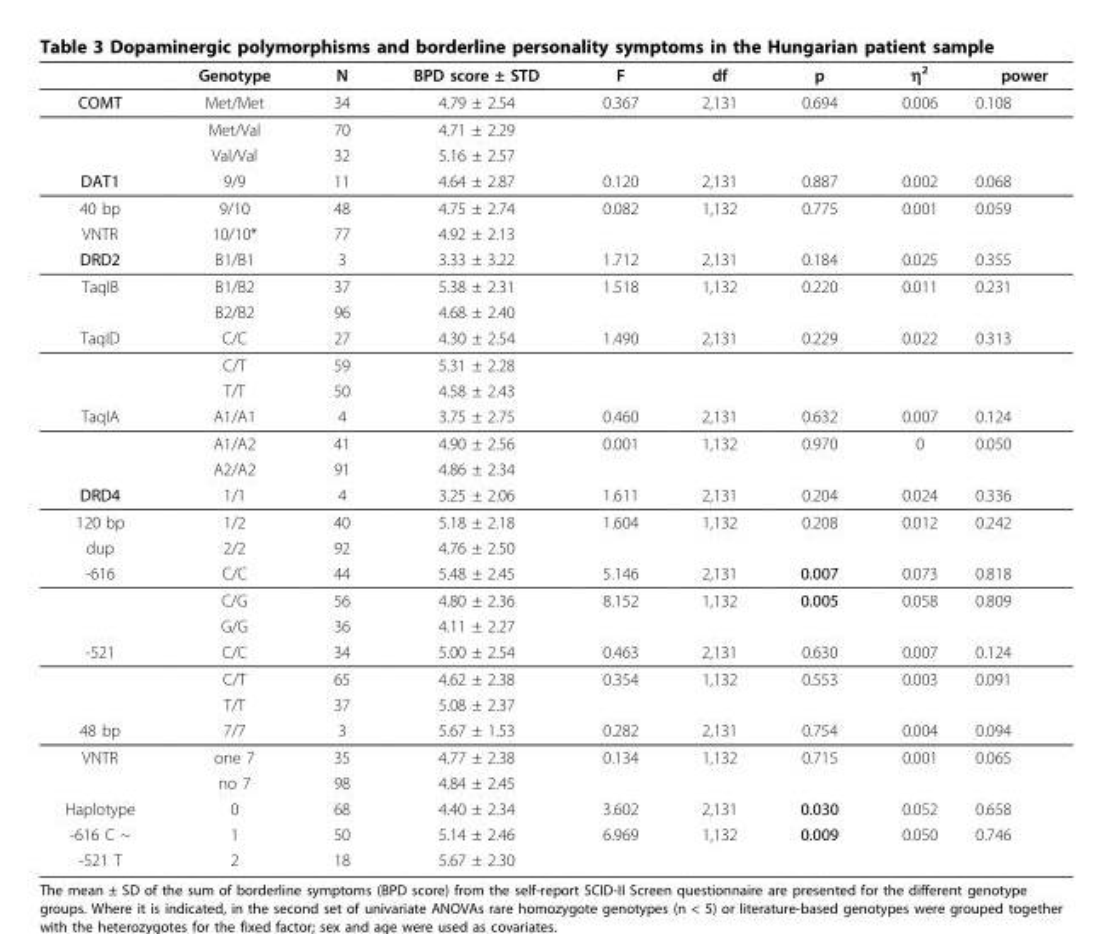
<table><thead><tr><td></td><td>Genotype</td><td>N</td><td>BPD score ± STD</td><td>F</td><td>df</td><td>p</td><td>η<sup>2</sup></td><td>power</td></tr></thead><tbody><tr><td rowspan="3">COMT</td><td>Met/Met</td><td>34</td><td>4.79 ± 2.54</td><td>0.367</td><td>2,131</td><td>0.694</td><td>0.006</td><td>0.108</td></tr><tr><td>Met/Val</td><td>70</td><td>4.71 ± 2.29</td><td></td><td></td><td></td><td></td><td></td></tr><tr><td>Val/Val</td><td>32</td><td>5.16 ± 2.57</td><td></td><td></td><td></td><td></td><td></td></tr><tr><td>DAT1</td><td>9/9</td><td>11</td><td>4.64 ± 2.87</td><td>0.120</td><td>2,131</td><td>0.887</td><td>0.002</td><td>0.068</td></tr><tr><td>40 bp</td><td>9/10</td><td>48</td><td>4.75 ± 2.74</td><td>0.082</td><td>1,132</td><td>0.775</td><td>0.001</td><td>0.059</td></tr><tr><td>VNTR</td><td>10/10*</td><td>77</td><td>4.92 ± 2.13</td><td></td><td></td><td></td><td></td><td></td></tr><tr><td>DRD2</td><td>B1/B1</td><td>3</td><td>3.33 ± 3.22</td><td>1.712</td><td>2,131</td><td>0.184</td><td>0.025</td><td>0.355</td></tr><tr><td rowspan="2">TaqIB</td><td>B1/B2</td><td>37</td><td>5.38 ± 2.31</td><td>1.518</td><td>1,132</td><td>0.220</td><td>0.011</td><td>0.231</td></tr><tr><td>B2/B2</td><td>96</td><td>4.68 ± 2.40</td><td></td><td></td><td></td><td></td><td></td></tr><tr><td rowspan="3">TaqID</td><td>C/C</td><td>27</td><td>4.30 ± 2.54</td><td>1.490</td><td>2,131</td><td>0.229</td><td>0.022</td><td>0.313</td></tr><tr><td>C/T</td><td>59</td><td>5.31 ± 2.28</td><td></td><td></td><td></td><td></td><td></td></tr><tr><td>T/T</td><td>50</td><td>4.58 ± 2.43</td><td></td><td></td><td></td><td></td><td></td></tr><tr><td rowspan="3">TaqIA</td><td>A1/A1</td><td>4</td><td>3.75 ± 2.75</td><td>0.460</td><td>2,131</td><td>0.632</td><td>0.007</td><td>0.124</td></tr><tr><td>A1/A2</td><td>41</td><td>4.90 ± 2.56</td><td>0.001</td><td>1,132</td><td>0.970</td><td>0</td><td>0.050</td></tr><tr><td>A2/A2</td><td>91</td><td>4.86 ± 2.34</td><td></td><td></td><td></td><td></td><td></td></tr><tr><td>DRD4</td><td>1/1</td><td>4</td><td>3.25 ± 2.06</td><td>1.611</td><td>2,131</td><td>0.204</td><td>0.024</td><td>0.336</td></tr><tr><td>120 bp</td><td>1/2</td><td>40</td><td>5.18 ± 2.18</td><td>1.604</td><td>1,132</td><td>0.208</td><td>0.012</td><td>0.242</td></tr><tr><td>dup</td><td>2/2</td><td>92</td><td>4.76 ± 2.50</td><td></td><td></td><td></td><td></td><td></td></tr><tr><td rowspan="3">-616</td><td>C/C</td><td>44</td><td>5.48 ± 2.45</td><td>5.146</td><td>2,131</td><td>0.007</td><td>0.073</td><td>0.818</td></tr><tr><td>C/G</td><td>56</td><td>4.80 ± 2.36</td><td>8.152</td><td>1,132</td><td>0.005</td><td>0.058</td><td>0.809</td></tr><tr><td>G/G</td><td>36</td><td>4.11 ± 2.27</td><td></td><td></td><td></td><td></td><td></td></tr><tr><td rowspan="3">-521</td><td>C/C</td><td>34</td><td>5.00 ± 2.54</td><td>0.463</td><td>2,131</td><td>0.630</td><td>0.007</td><td>0.124</td></tr><tr><td>C/T</td><td>65</td><td>4.62 ± 2.38</td><td>0.354</td><td>1,132</td><td>0.553</td><td>0.003</td><td>0.091</td></tr><tr><td>T/T</td><td>37</td><td>5.08 ± 2.37</td><td></td><td></td><td></td><td></td><td></td></tr><tr><td>48 bp</td><td>7/7</td><td>3</td><td>5.67 ± 1.53</td><td>0.282</td><td>2,131</td><td>0.754</td><td>0.004</td><td>0.094</td></tr><tr><td rowspan="2">VNTR</td><td>one 7</td><td>35</td><td>4.77 ± 2.38</td><td>0.134</td><td>1,132</td><td>0.715</td><td>0.001</td><td>0.065</td></tr><tr><td>no 7</td><td>98</td><td>4.84 ± 2.45</td><td></td><td></td><td></td><td></td><td></td></tr><tr><td>Haplotype</td><td>0</td><td>68</td><td>4.40 ± 2.34</td><td>3.602</td><td>2,131</td><td>0.030</td><td>0.052</td><td>0.658</td></tr><tr><td>-616 C ~</td><td>1</td><td>50</td><td>5.14 ± 2.46</td><td>6.969</td><td>1,132</td><td>0.009</td><td>0.050</td><td>0.746</td></tr><tr><td>-521 T</td><td>2</td><td>18</td><td>5.67 ± 2.30</td><td></td><td></td><td></td><td></td><td></td></tr></tbody></table>